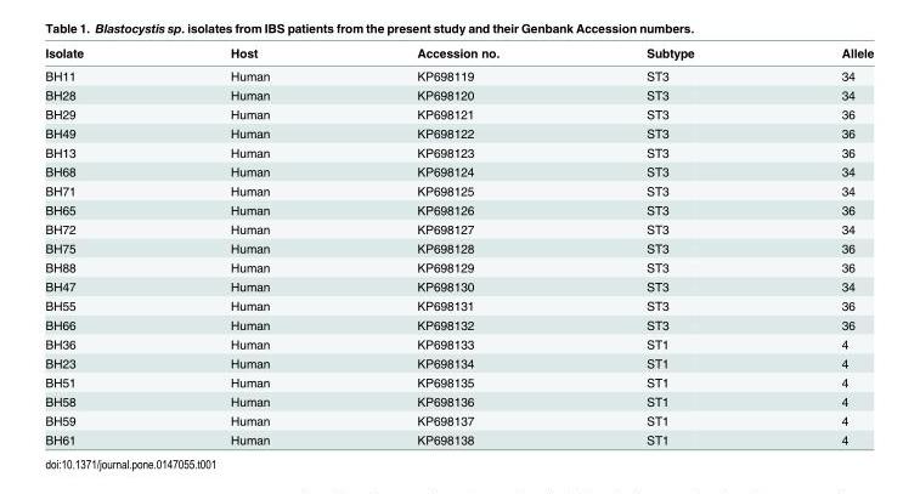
<table><thead><tr><td>Isolate</td><td>Host</td><td>Accession no.</td><td>Subtype</td><td>Allele</td></tr></thead><tbody><tr><td>BH11</td><td>Human</td><td>KP698119</td><td>ST3</td><td>34</td></tr><tr><td>BH28</td><td>Human</td><td>KP698120</td><td>ST3</td><td>34</td></tr><tr><td>BH29</td><td>Human</td><td>KP698121</td><td>ST3</td><td>36</td></tr><tr><td>BH49</td><td>Human</td><td>KP698122</td><td>ST3</td><td>36</td></tr><tr><td>BH13</td><td>Human</td><td>KP698123</td><td>ST3</td><td>36</td></tr><tr><td>BH68</td><td>Human</td><td>KP698124</td><td>ST3</td><td>34</td></tr><tr><td>BH71</td><td>Human</td><td>KP698125</td><td>ST3</td><td>34</td></tr><tr><td>BH65</td><td>Human</td><td>KP698126</td><td>ST3</td><td>36</td></tr><tr><td>BH72</td><td>Human</td><td>KP698127</td><td>ST3</td><td>34</td></tr><tr><td>BH75</td><td>Human</td><td>KP698128</td><td>ST3</td><td>36</td></tr><tr><td>BH88</td><td>Human</td><td>KP698129</td><td>ST3</td><td>36</td></tr><tr><td>BH47</td><td>Human</td><td>KP698130</td><td>ST3</td><td>34</td></tr><tr><td>BH55</td><td>Human</td><td>KP698131</td><td>ST3</td><td>36</td></tr><tr><td>BH66</td><td>Human</td><td>KP698132</td><td>ST3</td><td>36</td></tr><tr><td>BH36</td><td>Human</td><td>KP698133</td><td>ST1</td><td>4</td></tr><tr><td>BH23</td><td>Human</td><td>KP698134</td><td>ST1</td><td>4</td></tr><tr><td>BH51</td><td>Human</td><td>KP698135</td><td>ST1</td><td>4</td></tr><tr><td>BH58</td><td>Human</td><td>KP698136</td><td>ST1</td><td>4</td></tr><tr><td>BH59</td><td>Human</td><td>KP698137</td><td>ST1</td><td>4</td></tr><tr><td>BH61</td><td>Human</td><td>KP698138</td><td>ST1</td><td>4</td></tr></tbody></table>